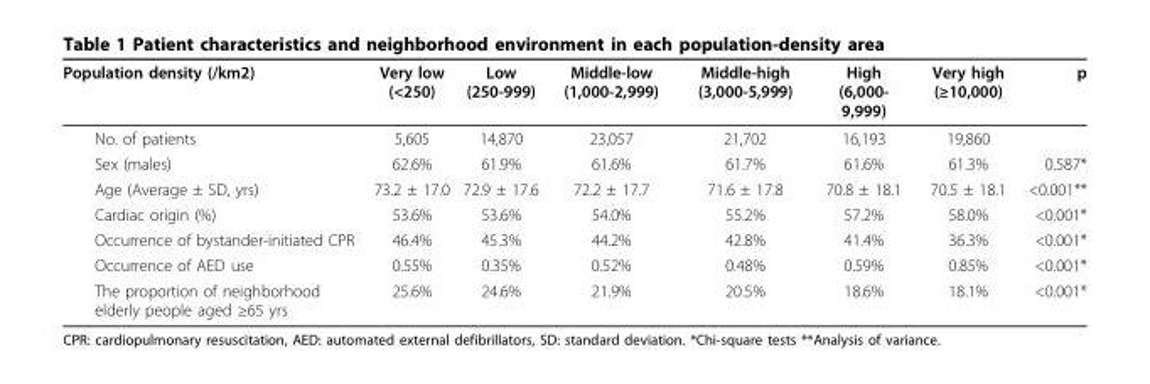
<table><thead><tr><td>Population density (/km2)</td><td>Very low (&lt;250)</td><td>Low (250-999)</td><td>Middle-low (1,000-2,999)</td><td>Middle-high (3,000-5,999)</td><td>High (6,000- 9,999)</td><td>Very high (≥10,000)</td><td>p</td></tr></thead><tbody><tr><td>No. of patients</td><td>5,605</td><td>14,870</td><td>23,057</td><td>21,702</td><td>16,193</td><td>19,860</td><td></td></tr><tr><td>Sex (males)</td><td>62.6%</td><td>61.9%</td><td>61.6%</td><td>61.7%</td><td>61.6%</td><td>61.3%</td><td>0.587*</td></tr><tr><td>Age (Average ± SD, yrs)</td><td>73.2 ± 17.0</td><td>72.9 ± 17.6</td><td>72.2 ± 17.7</td><td>71.6 ± 17.8</td><td>70.8 ± 18.1</td><td>70.5 ± 18.1</td><td>&lt;0.001**</td></tr><tr><td>Cardiac origin (%)</td><td>53.6%</td><td>53.6%</td><td>54.0%</td><td>55.2%</td><td>57.2%</td><td>58.0%</td><td>&lt;0.001*</td></tr><tr><td>Occurrence of bystander-initiated CPR</td><td>46.4%</td><td>45.3%</td><td>44.2%</td><td>42.8%</td><td>41.4%</td><td>36.3%</td><td>&lt;0.001*</td></tr><tr><td>Occurrence of AED use</td><td>0.55%</td><td>0.35%</td><td>0.52%</td><td>0.48%</td><td>0.59%</td><td>0.85%</td><td>&lt;0.001*</td></tr><tr><td>The proportion of neighborhood elderly people aged ≥65 yrs</td><td>25.6%</td><td>24.6%</td><td>21.9%</td><td>20.5%</td><td>18.6%</td><td>18.1%</td><td>&lt;0.001*</td></tr></tbody></table>